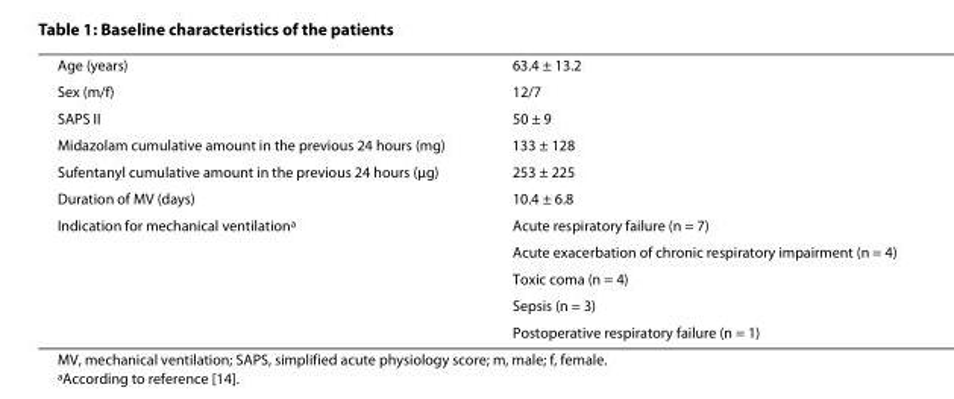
<table><tbody><tr><td>Age (years)</td><td>63.4 ± 13.2</td></tr><tr><td>Sex (m/f)</td><td>12/7</td></tr><tr><td>SAPS II</td><td>50 ± 9</td></tr><tr><td>Midazolam cumulative amount in the previous 24 hours (mg)</td><td>133 ± 128</td></tr><tr><td>Sufentanyl cumulative amount in the previous 24 hours (μg)</td><td>253 ± 225</td></tr><tr><td>Duration of MV (days)</td><td>10.4 ± 6.8</td></tr><tr><td rowspan="5">Indication for mechanical ventilation<sup>a</sup></td><td>Acute respiratory failure (n = 7)</td></tr><tr><td>Acute exacerbation of chronic respiratory impairment (n = 4)</td></tr><tr><td>Toxic coma (n = 4)</td></tr><tr><td>Sepsis (n = 3)</td></tr><tr><td>Postoperative respiratory failure (n = 1)</td></tr></tbody></table>